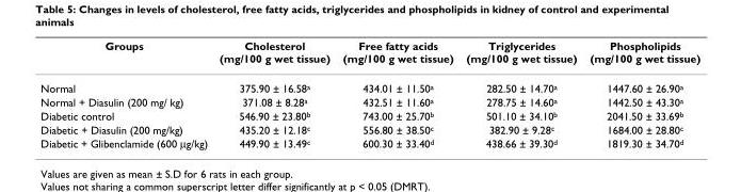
<table><thead><tr><td>Groups</td><td>Cholesterol (mg/100 g wet tissue)</td><td>Free fatty acids (mg/100 g wet tissue)</td><td>Triglycerides (mg/100 g wet tissue)</td><td>Phospholipids (mg/100 g wet tissue)</td></tr></thead><tbody><tr><td>Normal</td><td>375.90 ± 16.58<sup>a</sup></td><td>434.01 ± 11.50<sup>a</sup></td><td>282.50 ± 14.70<sup>a</sup></td><td>1447.60 ± 26.90<sup>a</sup></td></tr><tr><td>Normal + Diasulin (200 mg/ kg)</td><td>371.08 ± 8.28<sup>a</sup></td><td>432.51 ± 11.60<sup>a</sup></td><td>278.75 ± 14.60<sup>a</sup></td><td>1442.50 ± 43.30<sup>a</sup></td></tr><tr><td>Diabetic control</td><td>546.90 ± 23.80<sup>b</sup></td><td>743.00 ± 25.70<sup>b</sup></td><td>501.10 ± 34.10<sup>b</sup></td><td>2041.50 ± 33.69<sup>b</sup></td></tr><tr><td>Diabetic + Diasulin (200 mg/kg)</td><td>435.20 ± 12.18<sup>c</sup></td><td>556.80 ± 38.50<sup>c</sup></td><td>382.90 ± 9.28<sup>c</sup></td><td>1684.00 ± 28.80<sup>c</sup></td></tr><tr><td>Diabetic + Glibenclamide (600 µg/kg)</td><td>449.90 ± 13.49<sup>c</sup></td><td>600.30 ± 33.40<sup>d</sup></td><td>438.66 ± 39.30<sup>d</sup></td><td>1819.30 ± 34.70<sup>d</sup></td></tr></tbody></table>